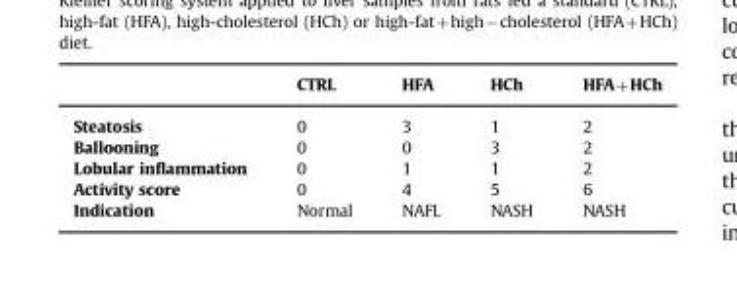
<table><thead><tr><td></td><td>CTRL</td><td>HFA</td><td>HCh</td><td>HFA+HCh</td></tr></thead><tbody><tr><td>Steatosis</td><td>0</td><td>3</td><td>1</td><td>2</td></tr><tr><td>Ballooning</td><td>0</td><td>0</td><td>3</td><td>2</td></tr><tr><td>Lobular inflammation</td><td>0</td><td>1</td><td>1</td><td>2</td></tr><tr><td>Activity score</td><td>0</td><td>4</td><td>5</td><td>6</td></tr><tr><td>Indication</td><td>Normal</td><td>NAFL</td><td>NASH</td><td>NASH</td></tr></tbody></table>